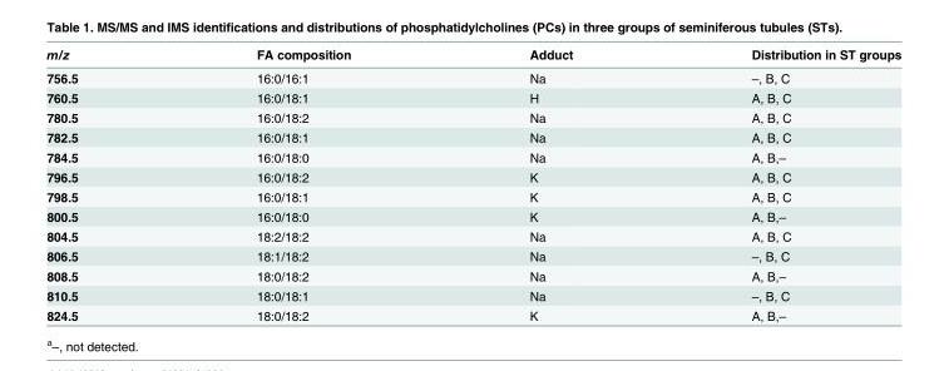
<table><thead><tr><td>m/z</td><td>FA composition</td><td>Adduct</td><td>Distribution in ST groups</td></tr></thead><tbody><tr><td>756.5</td><td>16:0/16:1</td><td>Na</td><td>–, B, C</td></tr><tr><td>760.5</td><td>16:0/18:1</td><td>H</td><td>A, B, C</td></tr><tr><td>780.5</td><td>16:0/18:2</td><td>Na</td><td>A, B, C</td></tr><tr><td>782.5</td><td>16:0/18:1</td><td>Na</td><td>A, B, C</td></tr><tr><td>784.5</td><td>16:0/18:0</td><td>Na</td><td>A, B,–</td></tr><tr><td>796.5</td><td>16:0/18:2</td><td>K</td><td>A, B, C</td></tr><tr><td>798.5</td><td>16:0/18:1</td><td>K</td><td>A, B, C</td></tr><tr><td>800.5</td><td>16:0/18:0</td><td>K</td><td>A, B,–</td></tr><tr><td>804.5</td><td>18:2/18:2</td><td>Na</td><td>A, B, C</td></tr><tr><td>806.5</td><td>18:1/18:2</td><td>Na</td><td>–, B, C</td></tr><tr><td>808.5</td><td>18:0/18:2</td><td>Na</td><td>A, B,–</td></tr><tr><td>810.5</td><td>18:0/18:1</td><td>Na</td><td>–, B, C</td></tr><tr><td>824.5</td><td>18:0/18:2</td><td>K</td><td>A, B,–</td></tr></tbody></table>